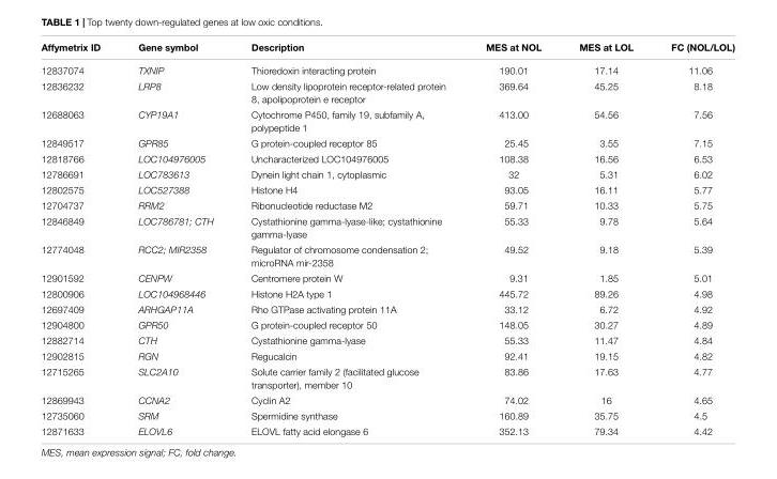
<table><thead><tr><td>Affymetrix ID</td><td>Gene symbol</td><td>Description</td><td>MES at NOL</td><td>MES at LOL</td><td>FC (NOL/LOL)</td></tr></thead><tbody><tr><td>12837074</td><td>TXNIP</td><td>Thioredoxin interacting protein</td><td>190.01</td><td>17.14</td><td>11.06</td></tr><tr><td>12836232</td><td>LRP8</td><td>Low density lipoprotein receptor-related protein 8, apolipoprotein e receptor</td><td>369.64</td><td>45.25</td><td>8.18</td></tr><tr><td>12688063</td><td>CYP19A1</td><td>Cytochrome P450, family 19, subfamily A, polypeptide 1</td><td>413.00</td><td>54.56</td><td>7.56</td></tr><tr><td>12849517</td><td>GPR85</td><td>G protein-coupled receptor 85</td><td>25.45</td><td>3.55</td><td>7.15</td></tr><tr><td>12818766</td><td>LOC104976005</td><td>Uncharacterized LOC104976005</td><td>108.38</td><td>16.56</td><td>6.53</td></tr><tr><td>12786691</td><td>LOC783613</td><td>Dynein light chain 1, cytoplasmic</td><td>32</td><td>5.31</td><td>6.02</td></tr><tr><td>12802575</td><td>LOC527388</td><td>Histone H4</td><td>93.05</td><td>16.11</td><td>5.77</td></tr><tr><td>12704737</td><td>RRM2</td><td>Ribonucleotide reductase M2</td><td>59.71</td><td>10.33</td><td>5.75</td></tr><tr><td>12846849</td><td>LOC786781; CTH</td><td>Cystathionine gamma-lyase-like; cystathionine gamma-lyase</td><td>55.33</td><td>9.78</td><td>5.64</td></tr><tr><td>12774048</td><td>RCC2; MIR2358</td><td>Regulator of chromosome condensation 2; microRNA mir-2358</td><td>49.52</td><td>9.18</td><td>5.39</td></tr><tr><td>12901592</td><td>CENPW</td><td>Centromere protein W</td><td>9.31</td><td>1.85</td><td>5.01</td></tr><tr><td>12800906</td><td>LOC104968446</td><td>Histone H2A type 1</td><td>445.72</td><td>89.26</td><td>4.98</td></tr><tr><td>12697409</td><td>ARHGAP11A</td><td>Rho GTPase activating protein 11A</td><td>33.12</td><td>6.72</td><td>4.92</td></tr><tr><td>12904800</td><td>GPR50</td><td>G protein-coupled receptor 50</td><td>148.05</td><td>30.27</td><td>4.89</td></tr><tr><td>12882714</td><td>CTH</td><td>Cystathionine gamma-lyase</td><td>55.33</td><td>11.47</td><td>4.84</td></tr><tr><td>12902815</td><td>RGN</td><td>Regucalcin</td><td>92.41</td><td>19.15</td><td>4.82</td></tr><tr><td>12715265</td><td>SLC2A10</td><td>Solute carrier family 2 (facilitated glucose transporter), member 10</td><td>83.86</td><td>17.63</td><td>4.77</td></tr><tr><td>12869943</td><td>CCNA2</td><td>Cyclin A2</td><td>74.02</td><td>16</td><td>4.65</td></tr><tr><td>12735060</td><td>SRM</td><td>Spermidine synthase</td><td>160.89</td><td>35.75</td><td>4.5</td></tr><tr><td>12871633</td><td>ELOVL6</td><td>ELOVL fatty acid elongase 6</td><td>352.13</td><td>79.34</td><td>4.42</td></tr></tbody></table>